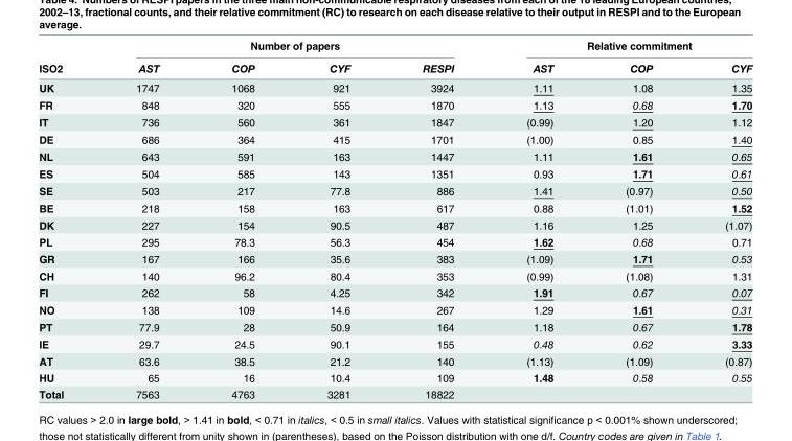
<table><thead><tr><td rowspan="2">ISO2</td><td colspan="4">Number of papers</td><td colspan="3">Relative commitment</td></tr><tr><td>AST</td><td>COP</td><td>CYF</td><td>RESPI</td><td>AST</td><td>COP</td><td>CYF</td></tr></thead><tbody><tr><td>UK</td><td>1747</td><td>1068</td><td>921</td><td>3924</td><td>1.11</td><td>1.08</td><td>1.35</td></tr><tr><td>FR</td><td>848</td><td>320</td><td>555</td><td>1870</td><td>1.13</td><td>0.68</td><td>1.70</td></tr><tr><td>IT</td><td>736</td><td>560</td><td>361</td><td>1847</td><td>(0.99)</td><td>1.20</td><td>1.12</td></tr><tr><td>DE</td><td>686</td><td>364</td><td>415</td><td>1701</td><td>(1.00)</td><td>0.85</td><td>1.40</td></tr><tr><td>NL</td><td>643</td><td>591</td><td>163</td><td>1447</td><td>1.11</td><td>1.61</td><td>0.65</td></tr><tr><td>ES</td><td>504</td><td>585</td><td>143</td><td>1351</td><td>0.93</td><td>1.71</td><td>0.61</td></tr><tr><td>SE</td><td>503</td><td>217</td><td>77.8</td><td>886</td><td>1.41</td><td>(0.97)</td><td>0.50</td></tr><tr><td>BE</td><td>218</td><td>158</td><td>163</td><td>617</td><td>0.88</td><td>(1.01)</td><td>1.52</td></tr><tr><td>DK</td><td>227</td><td>154</td><td>90.5</td><td>487</td><td>1.16</td><td>1.25</td><td>(1.07)</td></tr><tr><td>PL</td><td>295</td><td>78.3</td><td>56.3</td><td>454</td><td>1.62</td><td>0.68</td><td>0.71</td></tr><tr><td>GR</td><td>167</td><td>166</td><td>35.6</td><td>383</td><td>(1.09)</td><td>1.71</td><td>0.53</td></tr><tr><td>CH</td><td>140</td><td>96.2</td><td>80.4</td><td>353</td><td>(0.99)</td><td>(1.08)</td><td>1.31</td></tr><tr><td>FI</td><td>262</td><td>58</td><td>4.25</td><td>342</td><td>1.91</td><td>0.67</td><td>0.07</td></tr><tr><td>NO</td><td>138</td><td>109</td><td>14.6</td><td>267</td><td>1.29</td><td>1.61</td><td>0.31</td></tr><tr><td>PT</td><td>77.9</td><td>28</td><td>50.9</td><td>164</td><td>1.18</td><td>0.67</td><td>1.78</td></tr><tr><td>IE</td><td>29.7</td><td>24.5</td><td>90.1</td><td>155</td><td>0.48</td><td>0.62</td><td>3.33</td></tr><tr><td>AT</td><td>63.6</td><td>38.5</td><td>21.2</td><td>140</td><td>(1.13)</td><td>(1.09)</td><td>(0.87)</td></tr><tr><td>HU</td><td>65</td><td>16</td><td>10.4</td><td>109</td><td>1.48</td><td>0.58</td><td>0.55</td></tr><tr><td>Total</td><td>7563</td><td>4763</td><td>3281</td><td>18822</td><td></td><td></td><td></td></tr></tbody></table>